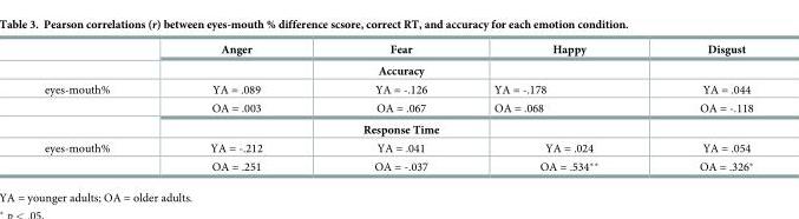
<table><thead><tr><td></td><td>Anger</td><td>Fear</td><td>Happy</td><td>Disgust</td></tr></thead><tbody><tr><td></td><td></td><td>Accuracy</td><td></td><td></td></tr><tr><td rowspan="3">eyes-mouth%</td><td>YA = .089</td><td>YA = -.126</td><td>YA = -.178</td><td>YA = .044</td></tr><tr><td>OA = .003</td><td>OA = .067</td><td>OA = .068</td><td>OA = -.118</td></tr><tr><td></td><td>Response Time</td><td></td><td></td></tr><tr><td rowspan="2">eyes-mouth%</td><td>YA = -.212</td><td>YA = .041</td><td>YA = .024</td><td>YA = .054</td></tr><tr><td>OA = .251</td><td>OA = -.037</td><td>OA = .534**</td><td>OA = .326*</td></tr></tbody></table>